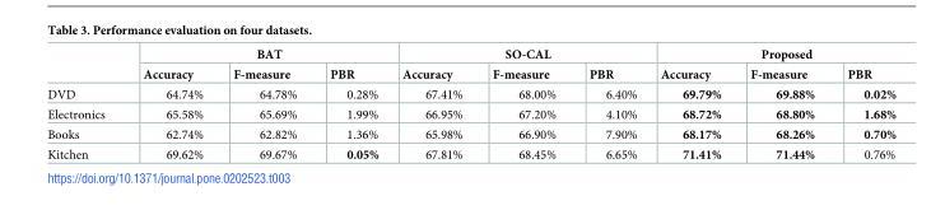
<table><thead><tr><td rowspan="2"></td><td colspan="3">BAT</td><td colspan="3">SO-CAL</td><td colspan="3">Proposed</td></tr><tr><td>Accuracy</td><td>F-measure</td><td>PBR</td><td>Accuracy</td><td>F-measure</td><td>PBR</td><td>Accuracy</td><td>F-measure</td><td>PBR</td></tr></thead><tbody><tr><td>DVD</td><td>64.74%</td><td>64.78%</td><td>0.28%</td><td>67.41%</td><td>68.00%</td><td>6.40%</td><td>69.79%</td><td>69.88%</td><td>0.02%</td></tr><tr><td>Electronics</td><td>65.58%</td><td>65.69%</td><td>1.99%</td><td>66.95%</td><td>67.20%</td><td>4.10%</td><td>68.72%</td><td>68.80%</td><td>1.68%</td></tr><tr><td>Books</td><td>62.74%</td><td>62.82%</td><td>1.36%</td><td>65.98%</td><td>66.90%</td><td>7.90%</td><td>68.17%</td><td>68.26%</td><td>0.70%</td></tr><tr><td>Kitchen</td><td>69.62%</td><td>69.67%</td><td>0.05%</td><td>67.81%</td><td>68.45%</td><td>6.65%</td><td>71.41%</td><td>71.44%</td><td>0.76%</td></tr></tbody></table>